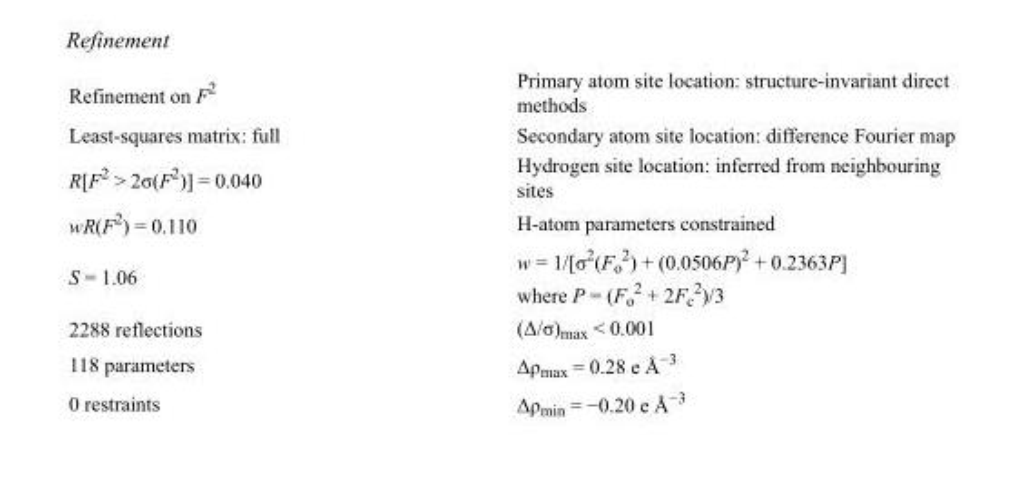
<table><tbody><tr><td>Refinement on F<sup>2</sup></td><td>Primary atom site location: structure-invariant direct methods</td></tr><tr><td>Least-squares matrix: full</td><td>Secondary atom site location: difference Fourier map</td></tr><tr><td>R[F<sup>2</sup> &gt; 2σ(F<sup>2</sup>)] = 0.040</td><td>Hydrogen site location: inferred from neighbouring sites</td></tr><tr><td>wR(F<sup>2</sup>) = 0.110</td><td>H-atom parameters constrained</td></tr><tr><td>S = 1.06</td><td>w = 1/[σ<sup>2</sup>(F<sub>o</sub> <sup>2</sup>) + (0.0506P)<sup>2</sup> + 0.2363P] where P = (F<sub>o</sub> <sup>2</sup> + 2F<sub>c</sub> <sup>2</sup>)/3</td></tr><tr><td>2288 reflections</td><td>(Δ/σ)<sub>max</sub> &lt; 0.001</td></tr><tr><td>118 parameters</td><td>Δρ<sub>max</sub> = 0.28 e Å<sup>−3</sup></td></tr><tr><td>0 restraints</td><td>Δρ<sub>min</sub> = −0.20 e Å<sup>−3</sup></td></tr></tbody></table>